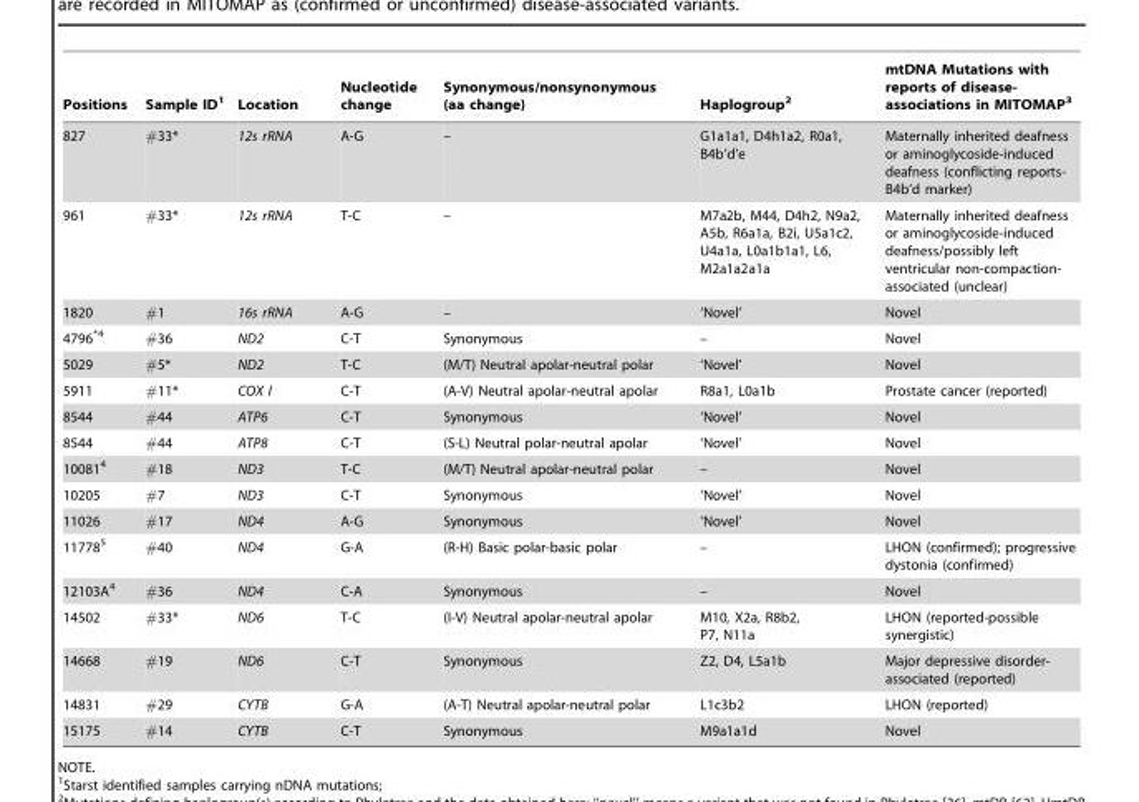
<table><thead><tr><td>Positions</td><td>Sample ID<sup>1</sup></td><td>Location</td><td>Nucleotide change</td><td>Synonymous/nonsynonymous (aa change)</td><td>Haplogroup<sup>2</sup></td><td>mtDNA Mutations with reports of disease- associations in MITOMAP<sup>3</sup></td></tr></thead><tbody><tr><td>827</td><td>#33*</td><td>12s rRNA</td><td>A-G</td><td>–</td><td>G1a1a1, D4h1a2, R0a1, B4b’d’e</td><td>Maternally inherited deafness or aminoglycoside-induced deafness (conflicting reports- B4b’d marker)</td></tr><tr><td>961</td><td>#33*</td><td>12s rRNA</td><td>T-C</td><td>–</td><td>M7a2b, M44, D4h2, N9a2, A5b, R6a1a, B2i, U5a1c2, U4a1a, L0a1b1a1, L6, M2a1a2a1a</td><td>Maternally inherited deafness or aminoglycoside-induced deafness/possibly left ventricular non-compaction- associated (unclear)</td></tr><tr><td>1820</td><td>#1</td><td>16s rRNA</td><td>A-G</td><td>–</td><td>‘Novel’</td><td>Novel</td></tr><tr><td>4796<sup>*4</sup></td><td>#36</td><td>ND2</td><td>C-T</td><td>Synonymous</td><td>–</td><td>Novel</td></tr><tr><td>5029</td><td>#5*</td><td>ND2</td><td>T-C</td><td>(M/T) Neutral apolar-neutral polar</td><td>‘Novel’</td><td>Novel</td></tr><tr><td>5911</td><td>#11*</td><td>COX I</td><td>C-T</td><td>(A-V) Neutral apolar-neutral apolar</td><td>R8a1, L0a1b</td><td>Prostate cancer (reported)</td></tr><tr><td>8544</td><td>#44</td><td>ATP6</td><td>C-T</td><td>Synonymous</td><td>‘Novel’</td><td>Novel</td></tr><tr><td>8544</td><td>#44</td><td>ATP8</td><td>C-T</td><td>(S-L) Neutral polar-neutral apolar</td><td>‘Novel’</td><td>Novel</td></tr><tr><td>10081<sup>4</sup></td><td>#18</td><td>ND3</td><td>T-C</td><td>(M/T) Neutral apolar-neutral polar</td><td>–</td><td>Novel</td></tr><tr><td>10205</td><td>#7</td><td>ND3</td><td>C-T</td><td>Synonymous</td><td>‘Novel’</td><td>Novel</td></tr><tr><td>11026</td><td>#17</td><td>ND4</td><td>A-G</td><td>Synonymous</td><td>‘Novel’</td><td>Novel</td></tr><tr><td>11778<sup>5</sup></td><td>#40</td><td>ND4</td><td>G-A</td><td>(R-H) Basic polar-basic polar</td><td>–</td><td>LHON (confirmed); progressive dystonia (confirmed)</td></tr><tr><td>12103A<sup>4</sup></td><td>#36</td><td>ND4</td><td>C-A</td><td>Synonymous</td><td>–</td><td>Novel</td></tr><tr><td>14502</td><td>#33*</td><td>ND6</td><td>T-C</td><td>(I-V) Neutral apolar-neutral apolar</td><td>M10, X2a, R8b2, P7, N11a</td><td>LHON (reported-possible synergistic)</td></tr><tr><td>14668</td><td>#19</td><td>ND6</td><td>C-T</td><td>Synonymous</td><td>Z2, D4, L5a1b</td><td>Major depressive disorder- associated (reported)</td></tr><tr><td>14831</td><td>#29</td><td>CYTB</td><td>G-A</td><td>(A-T) Neutral apolar-neutral polar</td><td>L1c3b2</td><td>LHON (reported)</td></tr><tr><td>15175</td><td>#14</td><td>CYTB</td><td>C-T</td><td>Synonymous</td><td>M9a1a1d</td><td>Novel</td></tr></tbody></table>